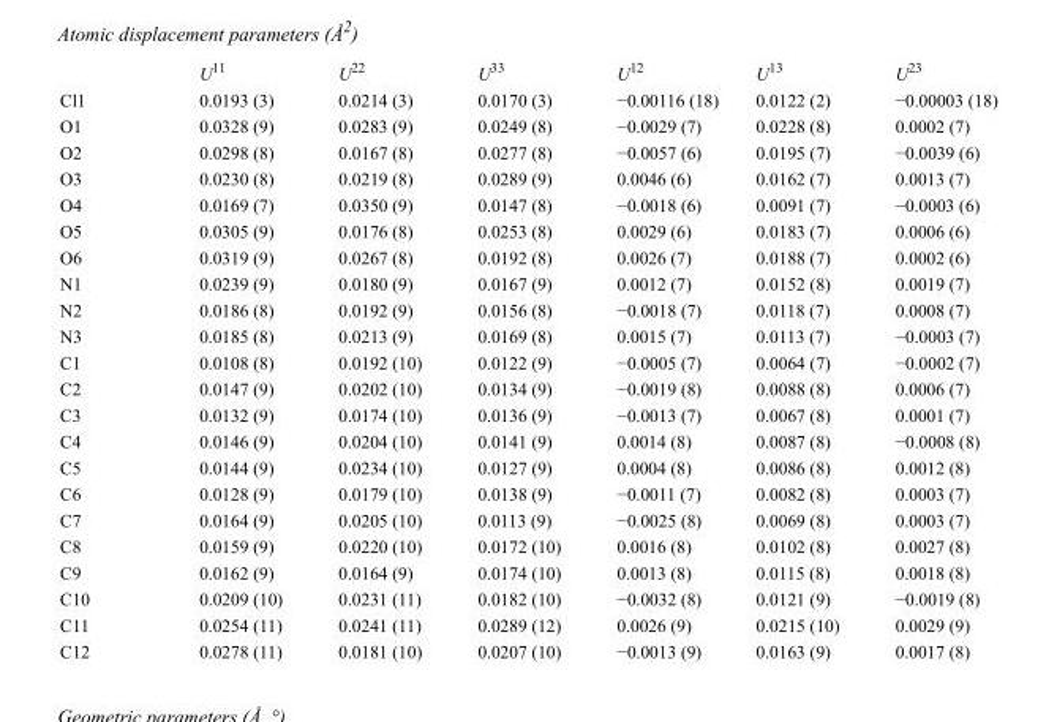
<table><thead><tr><td></td><td>U<sup>11</sup></td><td>U<sup>22</sup></td><td>U<sup>33</sup></td><td>U<sup>12</sup></td><td>U<sup>13</sup></td><td>U<sup>23</sup></td></tr></thead><tbody><tr><td>Cl1</td><td>0.0193 (3)</td><td>0.0214 (3)</td><td>0.0170 (3)</td><td>−0.00116 (18)</td><td>0.0122 (2)</td><td>−0.00003 (18)</td></tr><tr><td>O1</td><td>0.0328 (9)</td><td>0.0283 (9)</td><td>0.0249 (8)</td><td>−0.0029 (7)</td><td>0.0228 (8)</td><td>0.0002 (7)</td></tr><tr><td>O2</td><td>0.0298 (8)</td><td>0.0167 (8)</td><td>0.0277 (8)</td><td>−0.0057 (6)</td><td>0.0195 (7)</td><td>−0.0039 (6)</td></tr><tr><td>O3</td><td>0.0230 (8)</td><td>0.0219 (8)</td><td>0.0289 (9)</td><td>0.0046 (6)</td><td>0.0162 (7)</td><td>0.0013 (7)</td></tr><tr><td>O4</td><td>0.0169 (7)</td><td>0.0350 (9)</td><td>0.0147 (8)</td><td>−0.0018 (6)</td><td>0.0091 (7)</td><td>−0.0003 (6)</td></tr><tr><td>O5</td><td>0.0305 (9)</td><td>0.0176 (8)</td><td>0.0253 (8)</td><td>0.0029 (6)</td><td>0.0183 (7)</td><td>0.0006 (6)</td></tr><tr><td>O6</td><td>0.0319 (9)</td><td>0.0267 (8)</td><td>0.0192 (8)</td><td>0.0026 (7)</td><td>0.0188 (7)</td><td>0.0002 (6)</td></tr><tr><td>N1</td><td>0.0239 (9)</td><td>0.0180 (9)</td><td>0.0167 (9)</td><td>0.0012 (7)</td><td>0.0152 (8)</td><td>0.0019 (7)</td></tr><tr><td>N2</td><td>0.0186 (8)</td><td>0.0192 (9)</td><td>0.0156 (8)</td><td>−0.0018 (7)</td><td>0.0118 (7)</td><td>0.0008 (7)</td></tr><tr><td>N3</td><td>0.0185 (8)</td><td>0.0213 (9)</td><td>0.0169 (8)</td><td>0.0015 (7)</td><td>0.0113 (7)</td><td>−0.0003 (7)</td></tr><tr><td>C1</td><td>0.0108 (8)</td><td>0.0192 (10)</td><td>0.0122 (9)</td><td>−0.0005 (7)</td><td>0.0064 (7)</td><td>−0.0002 (7)</td></tr><tr><td>C2</td><td>0.0147 (9)</td><td>0.0202 (10)</td><td>0.0134 (9)</td><td>−0.0019 (8)</td><td>0.0088 (8)</td><td>0.0006 (7)</td></tr><tr><td>C3</td><td>0.0132 (9)</td><td>0.0174 (10)</td><td>0.0136 (9)</td><td>−0.0013 (7)</td><td>0.0067 (8)</td><td>0.0001 (7)</td></tr><tr><td>C4</td><td>0.0146 (9)</td><td>0.0204 (10)</td><td>0.0141 (9)</td><td>0.0014 (8)</td><td>0.0087 (8)</td><td>−0.0008 (8)</td></tr><tr><td>C5</td><td>0.0144 (9)</td><td>0.0234 (10)</td><td>0.0127 (9)</td><td>0.0004 (8)</td><td>0.0086 (8)</td><td>0.0012 (8)</td></tr><tr><td>C6</td><td>0.0128 (9)</td><td>0.0179 (10)</td><td>0.0138 (9)</td><td>−0.0011 (7)</td><td>0.0082 (8)</td><td>0.0003 (7)</td></tr><tr><td>C7</td><td>0.0164 (9)</td><td>0.0205 (10)</td><td>0.0113 (9)</td><td>−0.0025 (8)</td><td>0.0069 (8)</td><td>0.0003 (7)</td></tr><tr><td>C8</td><td>0.0159 (9)</td><td>0.0220 (10)</td><td>0.0172 (10)</td><td>0.0016 (8)</td><td>0.0102 (8)</td><td>0.0027 (8)</td></tr><tr><td>C9</td><td>0.0162 (9)</td><td>0.0164 (9)</td><td>0.0174 (10)</td><td>0.0013 (8)</td><td>0.0115 (8)</td><td>0.0018 (8)</td></tr><tr><td>C10</td><td>0.0209 (10)</td><td>0.0231 (11)</td><td>0.0182 (10)</td><td>−0.0032 (8)</td><td>0.0121 (9)</td><td>−0.0019 (8)</td></tr><tr><td>C11</td><td>0.0254 (11)</td><td>0.0241 (11)</td><td>0.0289 (12)</td><td>0.0026 (9)</td><td>0.0215 (10)</td><td>0.0029 (9)</td></tr><tr><td>C12</td><td>0.0278 (11)</td><td>0.0181 (10)</td><td>0.0207 (10)</td><td>−0.0013 (9)</td><td>0.0163 (9)</td><td>0.0017 (8)</td></tr></tbody></table>